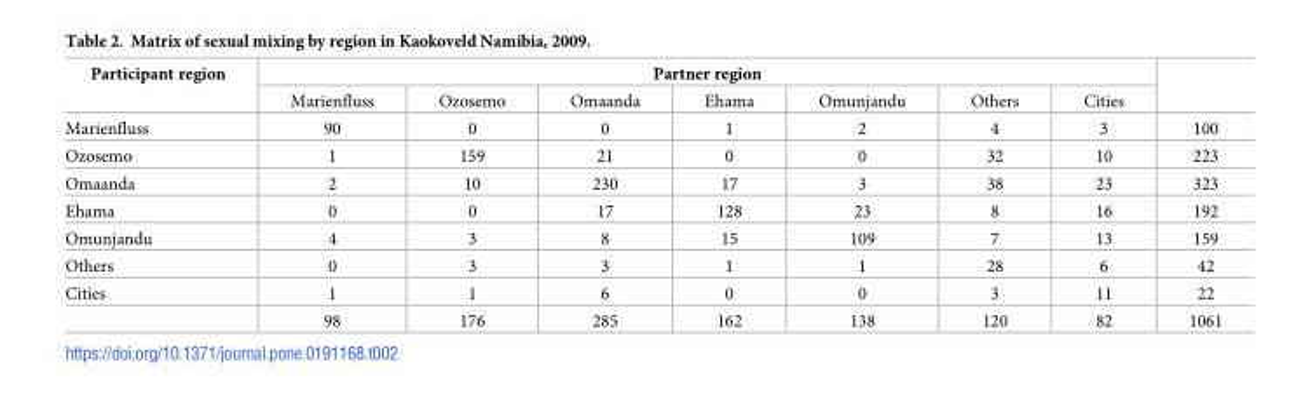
<table><tbody><tr><td rowspan="2">Participant region</td><td colspan="7">Partner region</td><td rowspan="2"></td></tr><tr><td>Marienfluss</td><td>Ozosemo</td><td>Omaanda</td><td>Ehama</td><td>Omunjandu</td><td>Others</td><td>Cities</td></tr><tr><td>Marienfluss</td><td>90</td><td>0</td><td>0</td><td>1</td><td>2</td><td>4</td><td>3</td><td>100</td></tr><tr><td>Ozosemo</td><td>1</td><td>159</td><td>21</td><td>0</td><td>0</td><td>32</td><td>10</td><td>223</td></tr><tr><td>Omaanda</td><td>2</td><td>10</td><td>230</td><td>17</td><td>3</td><td>38</td><td>23</td><td>323</td></tr><tr><td>Ehama</td><td>0</td><td>0</td><td>17</td><td>128</td><td>23</td><td>8</td><td>16</td><td>192</td></tr><tr><td>Omunjandu</td><td>4</td><td>3</td><td>8</td><td>15</td><td>109</td><td>7</td><td>13</td><td>159</td></tr><tr><td>Others</td><td>0</td><td>3</td><td>3</td><td>1</td><td>1</td><td>28</td><td>6</td><td>42</td></tr><tr><td rowspan="2">Cities</td><td>1</td><td>1</td><td>6</td><td>0</td><td>0</td><td>3</td><td>11</td><td>22</td></tr><tr><td>98</td><td>176</td><td>285</td><td>162</td><td>138</td><td>120</td><td>82</td><td>1061</td></tr></tbody></table>